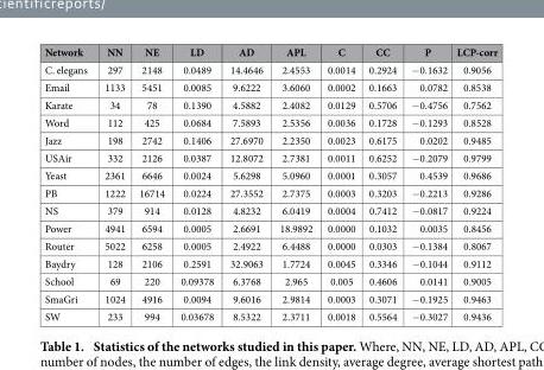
<table><thead><tr><td>Network</td><td>NN</td><td>NE</td><td>LD</td><td>AD</td><td>APL</td><td>C</td><td>CC</td><td>P</td><td>LCP-corr</td></tr></thead><tbody><tr><td>C. elegans</td><td>297</td><td>2148</td><td>0.0489</td><td>14.4646</td><td>2.4553</td><td>0.0014</td><td>0.2924</td><td>− 0.1632</td><td>0.9056</td></tr><tr><td>Email</td><td>1133</td><td>5451</td><td>0.0085</td><td>9.6222</td><td>3.6060</td><td>0.0002</td><td>0.1663</td><td>0.0782</td><td>0.8538</td></tr><tr><td>Karate</td><td>34</td><td>78</td><td>0.1390</td><td>4.5882</td><td>2.4082</td><td>0.0129</td><td>0.5706</td><td>− 0.4756</td><td>0.7562</td></tr><tr><td>Word</td><td>112</td><td>425</td><td>0.0684</td><td>7.5893</td><td>2.5356</td><td>0.0036</td><td>0.1728</td><td>− 0.1293</td><td>0.8528</td></tr><tr><td>Jazz</td><td>198</td><td>2742</td><td>0.1406</td><td>27.6970</td><td>2.2350</td><td>0.0023</td><td>0.6175</td><td>0.0202</td><td>0.9485</td></tr><tr><td>USAir</td><td>332</td><td>2126</td><td>0.0387</td><td>12.8072</td><td>2.7381</td><td>0.0011</td><td>0.6252</td><td>− 0.2079</td><td>0.9799</td></tr><tr><td>Yeast</td><td>2361</td><td>6646</td><td>0.0024</td><td>5.6298</td><td>5.0960</td><td>0.0001</td><td>0.3057</td><td>0.4539</td><td>0.9686</td></tr><tr><td>PB</td><td>1222</td><td>16714</td><td>0.0224</td><td>27.3552</td><td>2.7375</td><td>0.0003</td><td>0.3203</td><td>− 0.2213</td><td>0.9286</td></tr><tr><td>NS</td><td>379</td><td>914</td><td>0.0128</td><td>4.8232</td><td>6.0419</td><td>0.0004</td><td>0.7412</td><td>− 0.0817</td><td>0.9224</td></tr><tr><td>Power</td><td>4941</td><td>6594</td><td>0.0005</td><td>2.6691</td><td>18.9892</td><td>0.0000</td><td>0.1032</td><td>0.0035</td><td>0.8456</td></tr><tr><td>Router</td><td>5022</td><td>6258</td><td>0.0005</td><td>2.4922</td><td>6.4488</td><td>0.0000</td><td>0.0303</td><td>− 0.1384</td><td>0.8067</td></tr><tr><td>Baydry</td><td>128</td><td>2106</td><td>0.2591</td><td>32.9063</td><td>1.7724</td><td>0.0045</td><td>0.3346</td><td>− 0.1044</td><td>0.9112</td></tr><tr><td>School</td><td>69</td><td>220</td><td>0.09378</td><td>6.3768</td><td>2.965</td><td>0.005</td><td>0.4606</td><td>0.0141</td><td>0.9005</td></tr><tr><td>SmaGri</td><td>1024</td><td>4916</td><td>0.0094</td><td>9.6016</td><td>2.9814</td><td>0.0003</td><td>0.3071</td><td>− 0.1925</td><td>0.9463</td></tr><tr><td>SW</td><td>233</td><td>994</td><td>0.03678</td><td>8.5322</td><td>2.3711</td><td>0.0018</td><td>0.5564</td><td>− 0.3027</td><td>0.9436</td></tr></tbody></table>